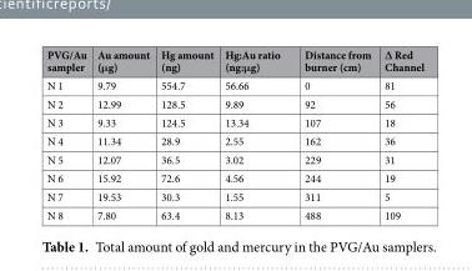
<table><thead><tr><td>PVG/Au sampler</td><td>Au amount (μg)</td><td>Hg amount (ng)</td><td>Hg:Au ratio (ng:μg)</td><td>Distance from burner (cm)</td><td>∆ Red Channel</td></tr></thead><tbody><tr><td>N 1</td><td>9.79</td><td>554.7</td><td>56.66</td><td>0</td><td>81</td></tr><tr><td>N 2</td><td>12.99</td><td>128.5</td><td>9.89</td><td>92</td><td>56</td></tr><tr><td>N 3</td><td>9.33</td><td>124.5</td><td>13.34</td><td>107</td><td>18</td></tr><tr><td>N 4</td><td>11.34</td><td>28.9</td><td>2.55</td><td>162</td><td>36</td></tr><tr><td>N 5</td><td>12.07</td><td>36.5</td><td>3.02</td><td>229</td><td>31</td></tr><tr><td>N 6</td><td>15.92</td><td>72.6</td><td>4.56</td><td>244</td><td>19</td></tr><tr><td>N 7</td><td>19.53</td><td>30.3</td><td>1.55</td><td>311</td><td>5</td></tr><tr><td>N 8</td><td>7.80</td><td>63.4</td><td>8.13</td><td>488</td><td>109</td></tr></tbody></table>